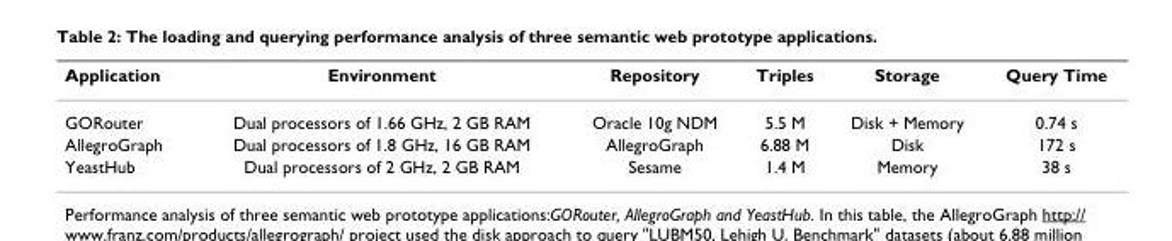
<table><thead><tr><td>Application</td><td>Environment</td><td>Repository</td><td>Triples</td><td>Storage</td><td>Query Time</td></tr></thead><tbody><tr><td>GORouter</td><td>Dual processors of 1.66 GHz, 2 GB RAM</td><td>Oracle 10g NDM</td><td>5.5 M</td><td>Disk + Memory</td><td>0.74 s</td></tr><tr><td>AllegroGraph</td><td>Dual processors of 1.8 GHz, 16 GB RAM</td><td>AllegroGraph</td><td>6.88 M</td><td>Disk</td><td>172 s</td></tr><tr><td>YeastHub</td><td>Dual processors of 2 GHz, 2 GB RAM</td><td>Sesame</td><td>1.4 M</td><td>Memory</td><td>38 s</td></tr></tbody></table>